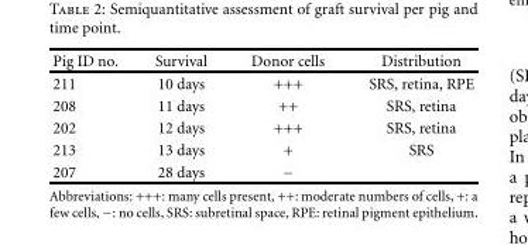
<table><thead><tr><td>Pig ID no.</td><td>Survival</td><td>Donor cells</td><td>Distribution</td></tr></thead><tbody><tr><td>211</td><td>10 days</td><td>+++</td><td>SRS, retina, RPE</td></tr><tr><td>208</td><td>11 days</td><td>++</td><td>SRS, retina</td></tr><tr><td>202</td><td>12 days</td><td>+++</td><td>SRS, retina</td></tr><tr><td>213</td><td>13 days</td><td>+</td><td>SRS</td></tr><tr><td>207</td><td>28 days</td><td>−</td><td></td></tr></tbody></table>